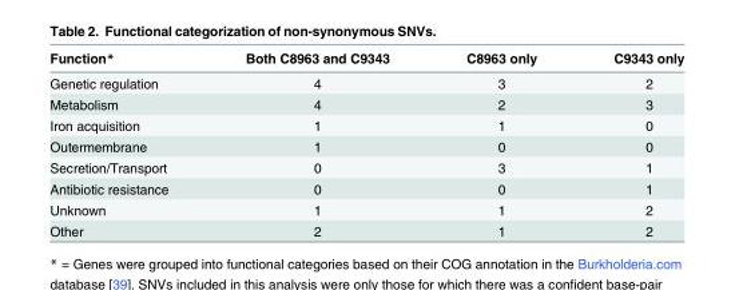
<table><thead><tr><td>Function*</td><td>Both C8963 and C9343</td><td>C8963 only</td><td>C9343 only</td></tr></thead><tbody><tr><td>Genetic regulation</td><td>4</td><td>3</td><td>2</td></tr><tr><td>Metabolism</td><td>4</td><td>2</td><td>3</td></tr><tr><td>Iron acquisition</td><td>1</td><td>1</td><td>0</td></tr><tr><td>Outermembrane</td><td>1</td><td>0</td><td>0</td></tr><tr><td>Secretion/Transport</td><td>0</td><td>3</td><td>1</td></tr><tr><td>Antibiotic resistance</td><td>0</td><td>0</td><td>1</td></tr><tr><td>Unknown</td><td>1</td><td>1</td><td>2</td></tr><tr><td>Other</td><td>2</td><td>1</td><td>2</td></tr></tbody></table>